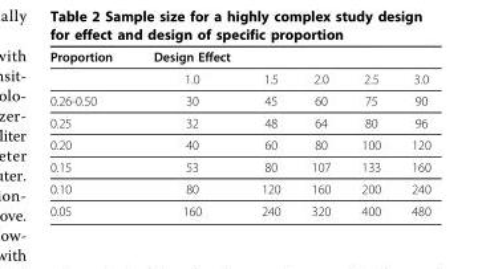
<table><thead><tr><td>Proportion</td><td>Design Effect</td><td></td><td></td><td></td><td></td></tr></thead><tbody><tr><td></td><td>1.0</td><td>1.5</td><td>2.0</td><td>2.5</td><td>3.0</td></tr><tr><td>0.26-0.50</td><td>30</td><td>45</td><td>60</td><td>75</td><td>90</td></tr><tr><td>0.25</td><td>32</td><td>48</td><td>64</td><td>80</td><td>96</td></tr><tr><td>0.20</td><td>40</td><td>60</td><td>80</td><td>100</td><td>120</td></tr><tr><td>0.15</td><td>53</td><td>80</td><td>107</td><td>133</td><td>160</td></tr><tr><td>0.10</td><td>80</td><td>120</td><td>160</td><td>200</td><td>240</td></tr><tr><td>0.05</td><td>160</td><td>240</td><td>320</td><td>400</td><td>480</td></tr></tbody></table>